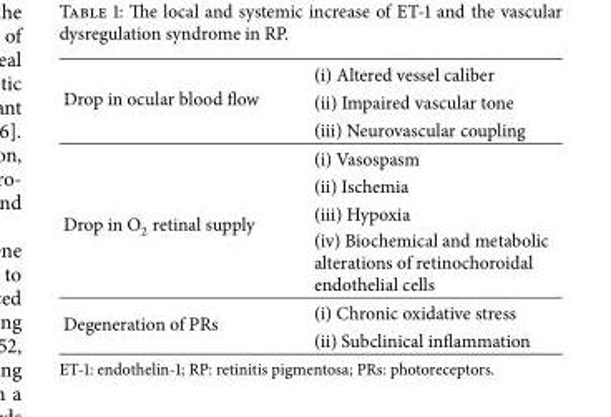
<table><tbody><tr><td rowspan="3">Drop in ocular blood flow</td><td>(i) Altered vessel caliber</td></tr><tr><td>(ii) Impaired vascular tone</td></tr><tr><td>(iii) Neurovascular coupling</td></tr><tr><td rowspan="4">Drop in O<sub>2</sub> retinal supply</td><td>(i) Vasospasm</td></tr><tr><td>(ii) Ischemia</td></tr><tr><td>(iii) Hypoxia</td></tr><tr><td>(iv) Biochemical and metabolic alterations of retinochoroidal endothelial cells</td></tr><tr><td rowspan="2">Degeneration of PRs</td><td>(i) Chronic oxidative stress</td></tr><tr><td>(ii) Subclinical inflammation</td></tr></tbody></table>